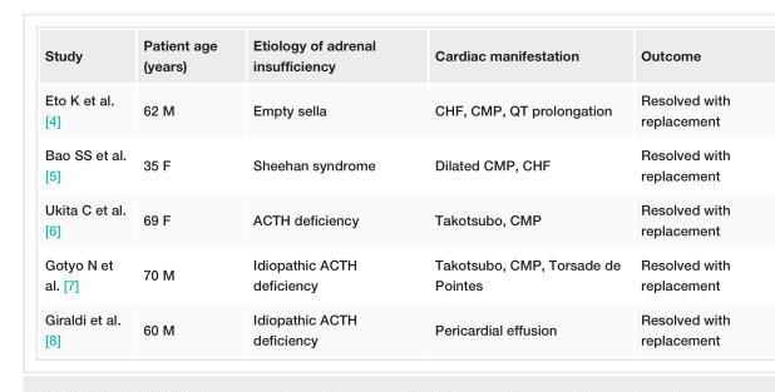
<table><tbody><tr><td>Study</td><td>Patient age (years)</td><td>Etiology of adrenal insufficiency</td><td>Cardiac manifestation</td><td>Outcome</td></tr><tr><td>Eto K et al. [4]</td><td>62 M</td><td>Empty sella</td><td>CHF, CMP, QT prolongation</td><td>Resolved with replacement</td></tr><tr><td>Bao SS et al. [5]</td><td>35 F</td><td>Sheehan syndrome</td><td>Dilated CMP, CHF</td><td>Resolved with replacement</td></tr><tr><td>Ukita C et al. [6]</td><td>69 F</td><td>ACTH deficiency</td><td>Takotsubo, CMP</td><td>Resolved with replacement</td></tr><tr><td>Gotyo N et al. [7]</td><td>70 M</td><td>Idiopathic ACTH deficiency</td><td>Takotsubo, CMP, Torsade de Pointes</td><td>Resolved with replacement</td></tr><tr><td>Giraldi et al. [8]</td><td>60 M</td><td>Idiopathic ACTH deficiency</td><td>Pericardial effusion</td><td>Resolved with replacement</td></tr></tbody></table>